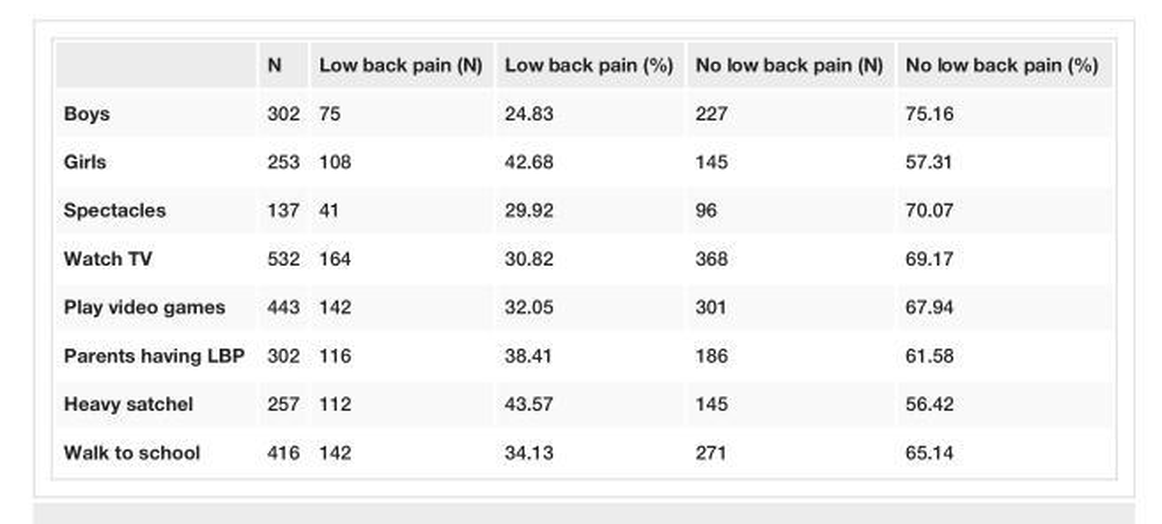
<table><thead><tr><td></td><td>N</td><td>Low back pain (N)</td><td>Low back pain (%)</td><td>No low back pain (N)</td><td>No low back pain (%)</td></tr></thead><tbody><tr><td>Boys</td><td>302</td><td>75</td><td>24.83</td><td>227</td><td>75.16</td></tr><tr><td>Girls</td><td>253</td><td>108</td><td>42.68</td><td>145</td><td>57.31</td></tr><tr><td>Spectacles</td><td>137</td><td>41</td><td>29.92</td><td>96</td><td>70.07</td></tr><tr><td>Watch TV</td><td>532</td><td>164</td><td>30.82</td><td>368</td><td>69.17</td></tr><tr><td>Play video games</td><td>443</td><td>142</td><td>32.05</td><td>301</td><td>67.94</td></tr><tr><td>Parents having LBP</td><td>302</td><td>116</td><td>38.41</td><td>186</td><td>61.58</td></tr><tr><td>Heavy satchel</td><td>257</td><td>112</td><td>43.57</td><td>145</td><td>56.42</td></tr><tr><td>Walk to school</td><td>416</td><td>142</td><td>34.13</td><td>271</td><td>65.14</td></tr></tbody></table>